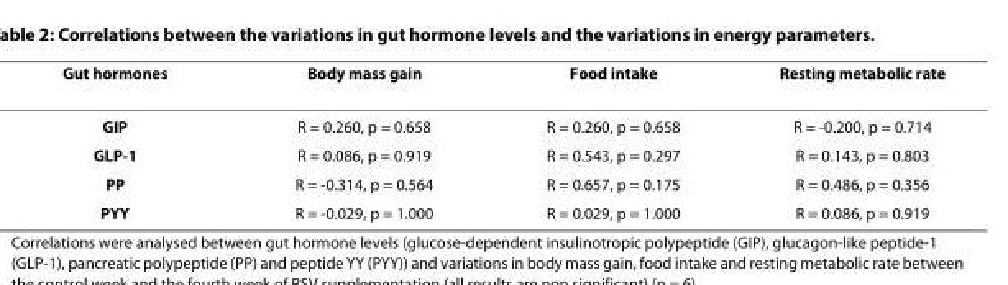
<table><thead><tr><td>Gut hormones</td><td>Body mass gain</td><td>Food intake</td><td>Resting metabolic rate</td></tr></thead><tbody><tr><td>GIP</td><td>R = 0.260, p = 0.658</td><td>R = 0.260, p = 0.658</td><td>R = -0.200, p = 0.714</td></tr><tr><td>GLP-1</td><td>R = 0.086, p = 0.919</td><td>R = 0.543, p = 0.297</td><td>R = 0.143, p = 0.803</td></tr><tr><td>PP</td><td>R = -0.314, p = 0.564</td><td>R = 0.657, p = 0.175</td><td>R = 0.486, p = 0.356</td></tr><tr><td>PYY</td><td>R = -0.029, p = 1.000</td><td>R = 0.029, p = 1.000</td><td>R = 0.086, p = 0.919</td></tr></tbody></table>